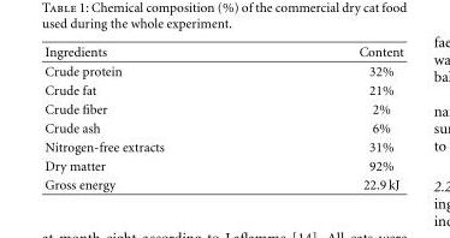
<table><thead><tr><td>Ingredients</td><td>Content</td></tr></thead><tbody><tr><td>Crude protein</td><td>32%</td></tr><tr><td>Crude fat</td><td>21%</td></tr><tr><td>Crude fiber</td><td>2%</td></tr><tr><td>Crude ash</td><td>6%</td></tr><tr><td>Nitrogen-free extracts</td><td>31%</td></tr><tr><td>Dry matter</td><td>92%</td></tr><tr><td>Gross energy</td><td>22.9 kJ</td></tr></tbody></table>